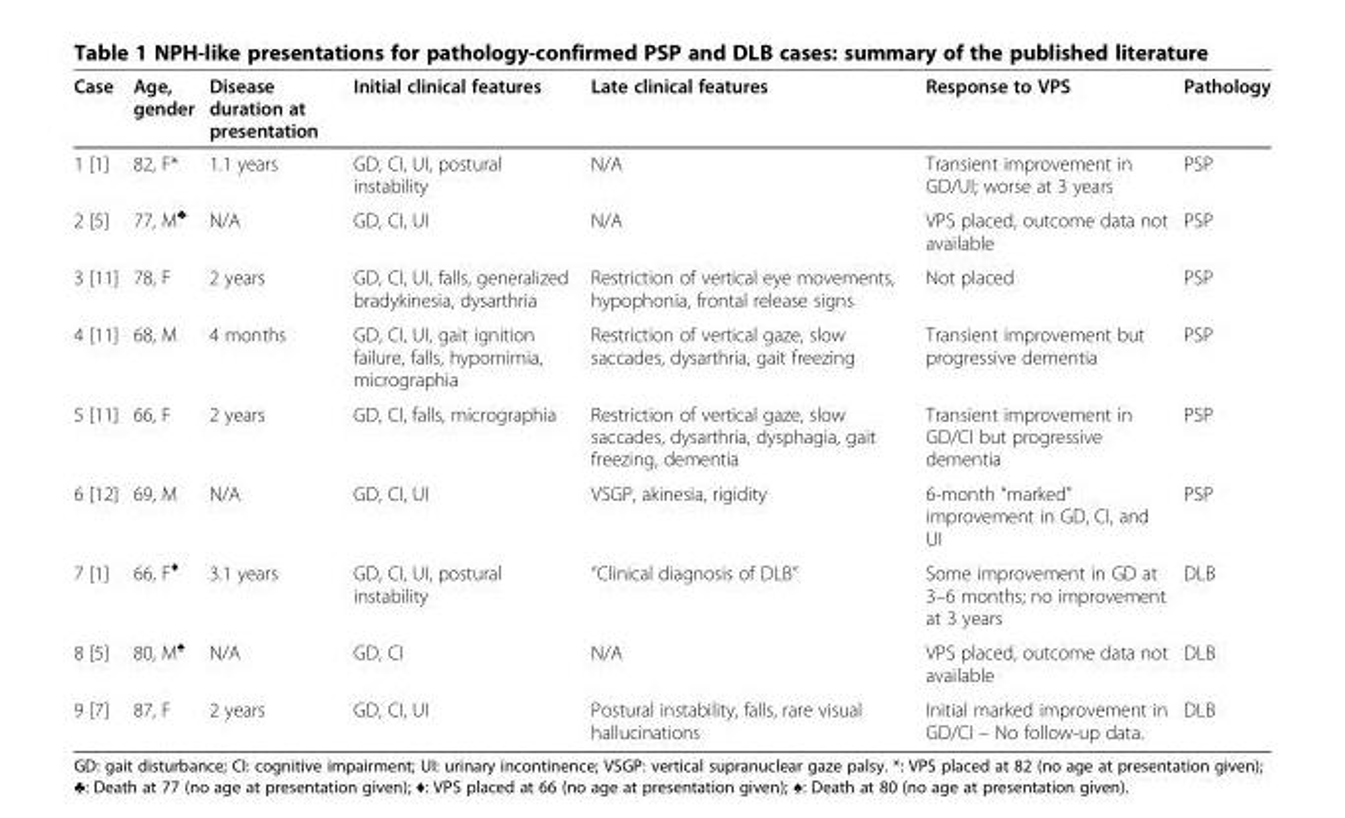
<table><thead><tr><td>Case</td><td>Age, gender</td><td>Disease duration at presentation</td><td>Initial clinical features</td><td>Late clinical features</td><td>Response to VPS</td><td>Pathology</td></tr></thead><tbody><tr><td>1 [1]</td><td>82, F*</td><td>1.1 years</td><td>GD, CI, UI, postural instability</td><td>N/A</td><td>Transient improvement in GD/UI; worse at 3 years</td><td>PSP</td></tr><tr><td>2 [5]</td><td>77, M<sup>♣</sup></td><td>N/A</td><td>GD, CI, UI</td><td>N/A</td><td>VPS placed, outcome data not available</td><td>PSP</td></tr><tr><td>3 [11]</td><td>78, F</td><td>2 years</td><td>GD, CI, UI, falls, generalized bradykinesia, dysarthria</td><td>Restriction of vertical eye movements, hypophonia, frontal release signs</td><td>Not placed</td><td>PSP</td></tr><tr><td>4 [11]</td><td>68, M</td><td>4 months</td><td>GD, CI, UI, gait ignition failure, falls, hypomimia, micrographia</td><td>Restriction of vertical gaze, slow saccades, dysarthria, gait freezing</td><td>Transient improvement but progressive dementia</td><td>PSP</td></tr><tr><td>5 [11]</td><td>66, F</td><td>2 years</td><td>GD, CI, falls, micrographia</td><td>Restriction of vertical gaze, slow saccades, dysarthria, dysphagia, gait freezing, dementia</td><td>Transient improvement in GD/CI but progressive dementia</td><td>PSP</td></tr><tr><td>6 [12]</td><td>69, M</td><td>N/A</td><td>GD, CI, UI</td><td>VSGP, akinesia, rigidity</td><td>6-month “marked” improvement in GD, CI, and UI</td><td>PSP</td></tr><tr><td>7 [1]</td><td>66, F<sup>♦</sup></td><td>3.1 years</td><td>GD, CI, UI, postural instability</td><td>“Clinical diagnosis of DLB”</td><td>Some improvement in GD at 3–6 months; no improvement at 3 years</td><td>DLB</td></tr><tr><td>8 [5]</td><td>80, M<sup>♠</sup></td><td>N/A</td><td>GD, CI</td><td>N/A</td><td>VPS placed, outcome data not available</td><td>DLB</td></tr><tr><td>9 [7]</td><td>87, F</td><td>2 years</td><td>GD, CI, UI</td><td>Postural instability, falls, rare visual hallucinations</td><td>Initial marked improvement in GD/CI – No follow-up data.</td><td>DLB</td></tr></tbody></table>